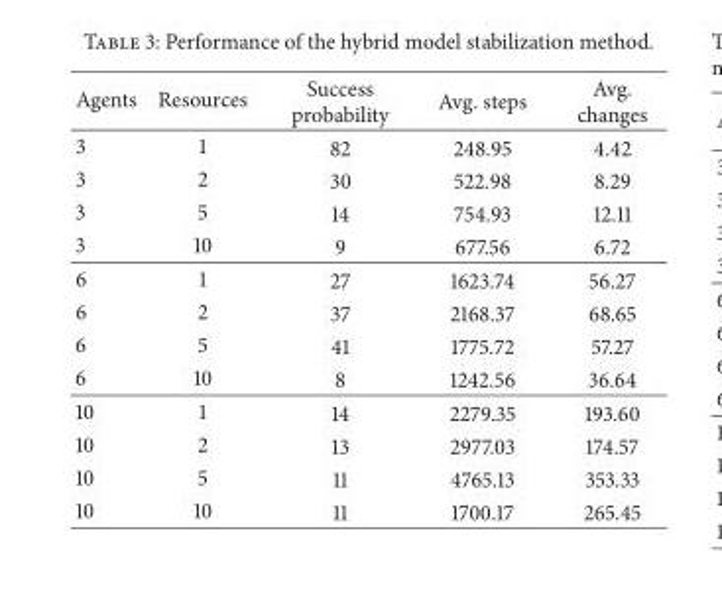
<table><thead><tr><td>Agents</td><td>Resources</td><td>Success probability</td><td>Avg. steps</td><td>Avg. changes</td></tr></thead><tbody><tr><td>3</td><td>1</td><td>82</td><td>248.95</td><td>4.42</td></tr><tr><td>3</td><td>2</td><td>30</td><td>522.98</td><td>8.29</td></tr><tr><td>3</td><td>5</td><td>14</td><td>754.93</td><td>12.11</td></tr><tr><td>3</td><td>10</td><td>9</td><td>677.56</td><td>6.72</td></tr><tr><td>6</td><td>1</td><td>27</td><td>1623.74</td><td>56.27</td></tr><tr><td>6</td><td>2</td><td>37</td><td>2168.37</td><td>68.65</td></tr><tr><td>6</td><td>5</td><td>41</td><td>1775.72</td><td>57.27</td></tr><tr><td>6</td><td>10</td><td>8</td><td>1242.56</td><td>36.64</td></tr><tr><td>10</td><td>1</td><td>14</td><td>2279.35</td><td>193.60</td></tr><tr><td>10</td><td>2</td><td>13</td><td>2977.03</td><td>174.57</td></tr><tr><td>10</td><td>5</td><td>11</td><td>4765.13</td><td>353.33</td></tr><tr><td>10</td><td>10</td><td>11</td><td>1700.17</td><td>265.45</td></tr></tbody></table>